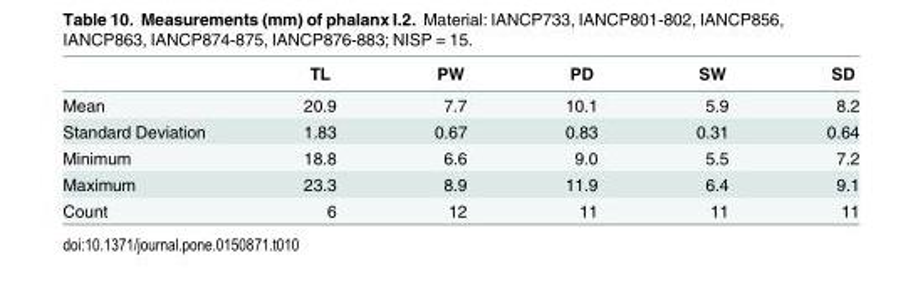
<table><thead><tr><td></td><td>TL</td><td>PW</td><td>PD</td><td>SW</td><td>SD</td></tr></thead><tbody><tr><td>Mean</td><td>20.9</td><td>7.7</td><td>10.1</td><td>5.9</td><td>8.2</td></tr><tr><td>Standard Deviation</td><td>1.83</td><td>0.67</td><td>0.83</td><td>0.31</td><td>0.64</td></tr><tr><td>Minimum</td><td>18.8</td><td>6.6</td><td>9.0</td><td>5.5</td><td>7.2</td></tr><tr><td>Maximum</td><td>23.3</td><td>8.9</td><td>11.9</td><td>6.4</td><td>9.1</td></tr><tr><td>Count</td><td>6</td><td>12</td><td>11</td><td>11</td><td>11</td></tr></tbody></table>